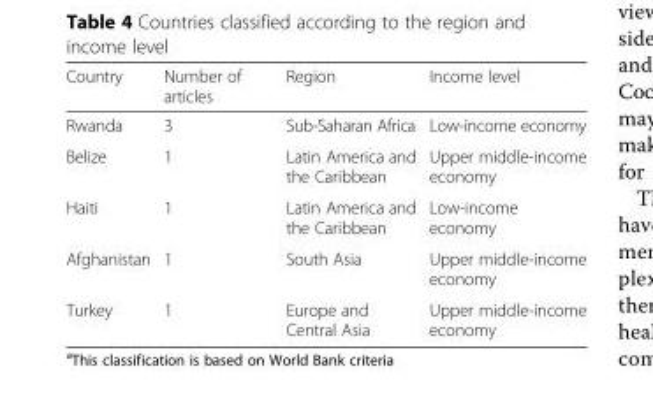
<table><thead><tr><td>Country</td><td>Number of articles</td><td>Region</td><td>Income level</td></tr></thead><tbody><tr><td>Rwanda</td><td>3</td><td>Sub-Saharan Africa</td><td>Low-income economy</td></tr><tr><td>Belize</td><td>1</td><td>Latin America and the Caribbean</td><td>Upper middle-income economy</td></tr><tr><td>Haiti</td><td>1</td><td>Latin America and the Caribbean</td><td>Low-income economy</td></tr><tr><td>Afghanistan</td><td>1</td><td>South Asia</td><td>Upper middle-income economy</td></tr><tr><td>Turkey</td><td>1</td><td>Europe and Central Asia</td><td>Upper middle-income economy</td></tr></tbody></table>